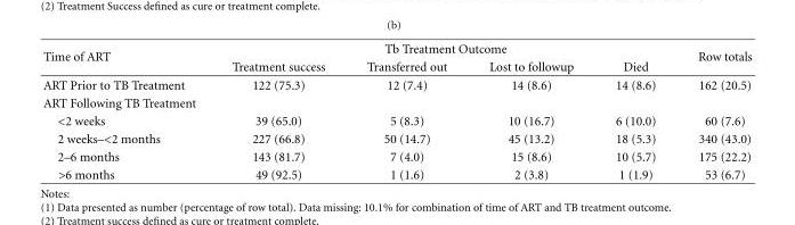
<table><thead><tr><td rowspan="2">Time of ART</td><td colspan="4">Tb Treatment Outcome</td><td rowspan="2">Row totals</td></tr><tr><td>Treatment success</td><td>Transferred out</td><td>Lost to followup</td><td>Died</td></tr></thead><tbody><tr><td>ART Prior to TB Treatment</td><td>122 (75.3)</td><td>12 (7.4)</td><td>14 (8.6)</td><td>14 (8.6)</td><td>162 (20.5)</td></tr><tr><td colspan="6">ART Following TB Treatment</td></tr><tr><td>&lt;2 weeks</td><td>39 (65.0)</td><td>5 (8.3)</td><td>10 (16.7)</td><td>6 (10.0)</td><td>60 (7.6)</td></tr><tr><td>2 weeks–&lt;2 months</td><td>227 (66.8)</td><td>50 (14.7)</td><td>45 (13.2)</td><td>18 (5.3)</td><td>340 (43.0)</td></tr><tr><td>2–6 months</td><td>143 (81.7)</td><td>7 (4.0)</td><td>15 (8.6)</td><td>10 (5.7)</td><td>175 (22.2)</td></tr><tr><td>&gt;6 months</td><td>49 (92.5)</td><td>1 (1.6)</td><td>2 (3.8)</td><td>1 (1.9)</td><td>53 (6.7)</td></tr></tbody></table>